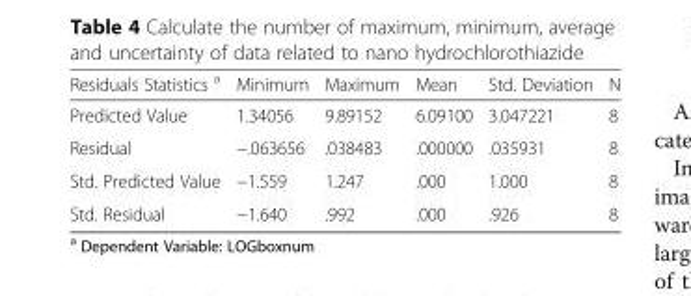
<table><thead><tr><td>Residuals Statistics <sup>a</sup></td><td>Minimum</td><td>Maximum</td><td>Mean</td><td>Std. Deviation</td><td>N</td></tr></thead><tbody><tr><td>Predicted Value</td><td>1.34056</td><td>9.89152</td><td>6.09100</td><td>3.047221</td><td>8</td></tr><tr><td>Residual</td><td>−.063656</td><td>.038483</td><td>.000000</td><td>.035931</td><td>8</td></tr><tr><td>Std. Predicted Value</td><td>−1.559</td><td>1.247</td><td>.000</td><td>1.000</td><td>8</td></tr><tr><td>Std. Residual</td><td>−1.640</td><td>.992</td><td>.000</td><td>.926</td><td>8</td></tr></tbody></table>